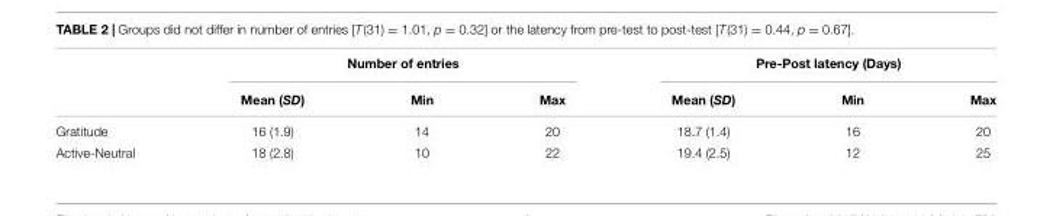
<table><thead><tr><td rowspan="2"></td><td colspan="3">Number of entries</td><td colspan="3">Pre-Post latency (Days)</td></tr><tr><td>Mean (SD)</td><td>Min</td><td>Max</td><td>Mean (SD)</td><td>Min</td><td>Max</td></tr></thead><tbody><tr><td>Gratitude</td><td>16 (1.9)</td><td>14</td><td>20</td><td>18.7 (1.4)</td><td>16</td><td>20</td></tr><tr><td>Active-Neutral</td><td>18 (2.8)</td><td>10</td><td>22</td><td>19.4 (2.5)</td><td>12</td><td>25</td></tr></tbody></table>